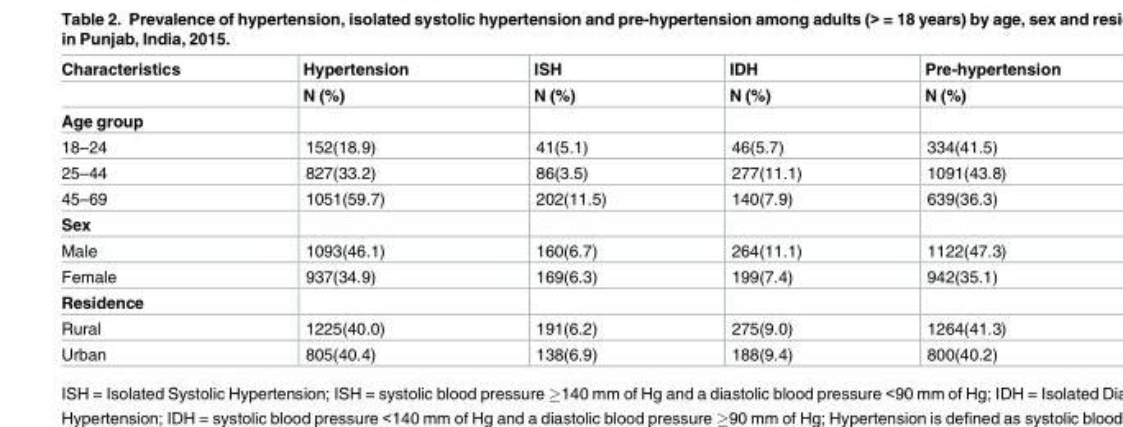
<table><thead><tr><td rowspan="2">Characteristics</td><td rowspan="2">Hypertension N (%)</td><td rowspan="2">ISH N (%)</td><td rowspan="2">IDH N (%)</td><td rowspan="2">Pre-hypertension N (%)</td></tr><tr></tr></thead><tbody><tr><td colspan="5">Age group</td></tr><tr><td>18–24</td><td>152(18.9)</td><td>41(5.1)</td><td>46(5.7)</td><td>334(41.5)</td></tr><tr><td>25–44</td><td>827(33.2)</td><td>86(3.5)</td><td>277(11.1)</td><td>1091(43.8)</td></tr><tr><td>45–69</td><td>1051(59.7)</td><td>202(11.5)</td><td>140(7.9)</td><td>639(36.3)</td></tr><tr><td colspan="5">Sex</td></tr><tr><td>Male</td><td>1093(46.1)</td><td>160(6.7)</td><td>264(11.1)</td><td>1122(47.3)</td></tr><tr><td>Female</td><td>937(34.9)</td><td>169(6.3)</td><td>199(7.4)</td><td>942(35.1)</td></tr><tr><td colspan="5">Residence</td></tr><tr><td>Rural</td><td>1225(40.0)</td><td>191(6.2)</td><td>275(9.0)</td><td>1264(41.3)</td></tr><tr><td>Urban</td><td>805(40.4)</td><td>138(6.9)</td><td>188(9.4)</td><td>800(40.2)</td></tr></tbody></table>